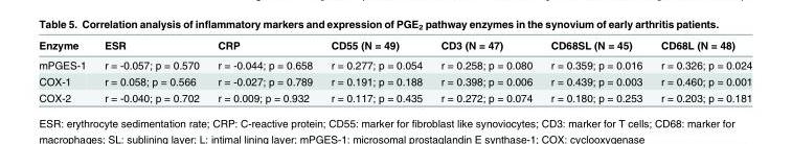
<table><thead><tr><td>Enzyme</td><td>ESR</td><td>CRP</td><td>CD55 (N = 49)</td><td>CD3 (N = 47)</td><td>CD68SL (N = 45)</td><td>CD68L (N = 48)</td></tr></thead><tbody><tr><td>mPGES-1</td><td>r = -0.057; p = 0.570</td><td>r = -0.044; p = 0.658</td><td>r = 0.277; p = 0.054</td><td>r = 0.258; p = 0.080</td><td>r = 0.359; p = 0.016</td><td>r = 0.326; p = 0.024</td></tr><tr><td>COX-1</td><td>r = 0.058; p = 0.566</td><td>r = -0.027; p = 0.789</td><td>r = 0.191; p = 0.188</td><td>r = 0.398; p = 0.006</td><td>r = 0.439; p = 0.003</td><td>r = 0.460; p = 0.001</td></tr><tr><td>COX-2</td><td>r = -0.040; p = 0.702</td><td>r = 0.009; p = 0.932</td><td>r = 0.117; p = 0.435</td><td>r = 0.272; p = 0.074</td><td>r = 0.180; p = 0.253</td><td>r = 0.203; p = 0.181</td></tr></tbody></table>